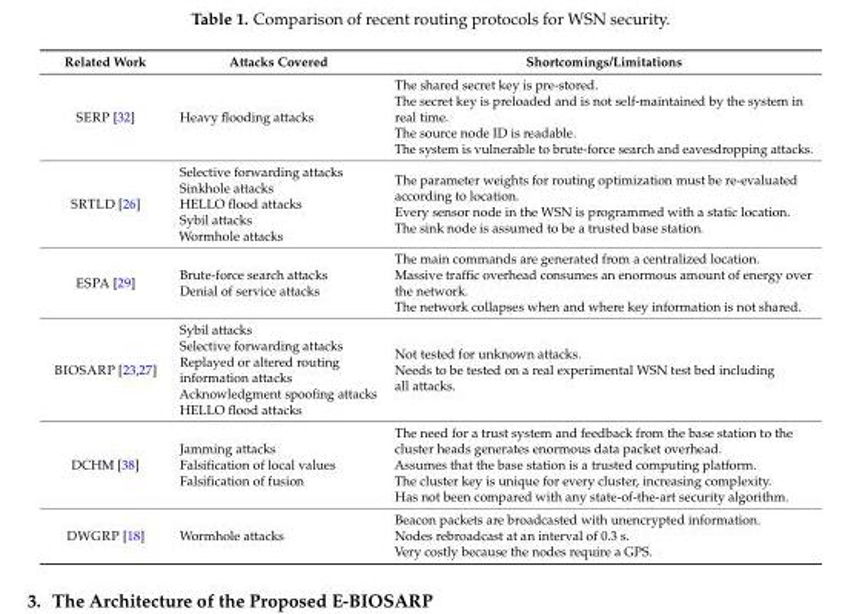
<table><thead><tr><td>Related Work</td><td>Attacks Covered</td><td>Shortcomings/Limitations</td></tr></thead><tbody><tr><td>SERP [32]</td><td>Heavy flooding attacks</td><td>The shared secret key is pre-stored. The secret key is preloaded and is not self-maintained by the system in real time. The source node ID is readable. The system is vulnerable to brute-force search and eavesdropping attacks.</td></tr><tr><td>SRTLD [26]</td><td>Selective forwarding attacks Sinkhole attacks HELLO flood attacks Sybil attacks Wormhole attacks</td><td>The parameter weights for routing optimization must be re-evaluated according to location. Every sensor node in the WSN is programmed with a static location. The sink node is assumed to be a trusted base station.</td></tr><tr><td>ESPA [29]</td><td>Brute-force search attacks Denial of service attacks</td><td>The main commands are generated from a centralized location. Massive traffic overhead consumes an enormous amount of energy over the network. The network collapses when and where key information is not shared.</td></tr><tr><td>BIOSARP [23,27]</td><td>Sybil attacks Selective forwarding attacks Replayed or altered routing information attacks Acknowledgment spoofing attacks HELLO flood attacks</td><td>Not tested for unknown attacks. Needs to be tested on a real experimental WSN test bed including all attacks.</td></tr><tr><td>DCHM [38]</td><td>Jamming attacks Falsification of local values Falsification of fusion</td><td>The need for a trust system and feedback from the base station to the cluster heads generates enormous data packet overhead. Assumes that the base station is a trusted computing platform. The cluster key is unique for every cluster, increasing complexity. Has not been compared with any state-of-the-art security algorithm.</td></tr><tr><td>DWGRP [18]</td><td>Wormhole attacks</td><td>Beacon packets are broadcasted with unencrypted information. Nodes rebroadcast at an interval of 0.3 s. Very costly because the nodes require a GPS.</td></tr></tbody></table>